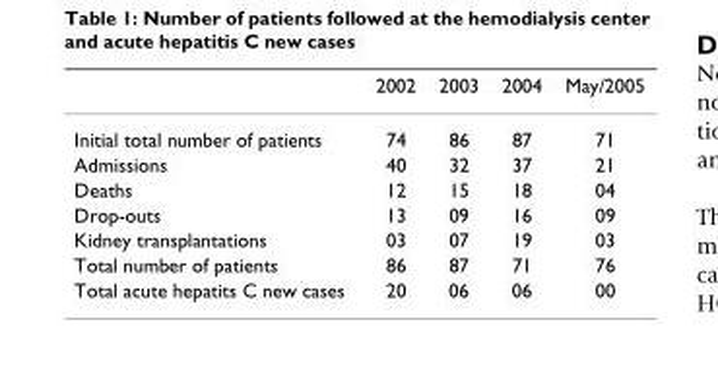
<table><thead><tr><td></td><td>2002</td><td>2003</td><td>2004</td><td>May/2005</td></tr></thead><tbody><tr><td>Initial total number of patients</td><td>74</td><td>86</td><td>87</td><td>71</td></tr><tr><td>Admissions</td><td>40</td><td>32</td><td>37</td><td>21</td></tr><tr><td>Deaths</td><td>12</td><td>15</td><td>18</td><td>04</td></tr><tr><td>Drop-outs</td><td>13</td><td>09</td><td>16</td><td>09</td></tr><tr><td>Kidney transplantations</td><td>03</td><td>07</td><td>19</td><td>03</td></tr><tr><td>Total number of patients</td><td>86</td><td>87</td><td>71</td><td>76</td></tr><tr><td>Total acute hepatits C new cases</td><td>20</td><td>06</td><td>06</td><td>00</td></tr></tbody></table>